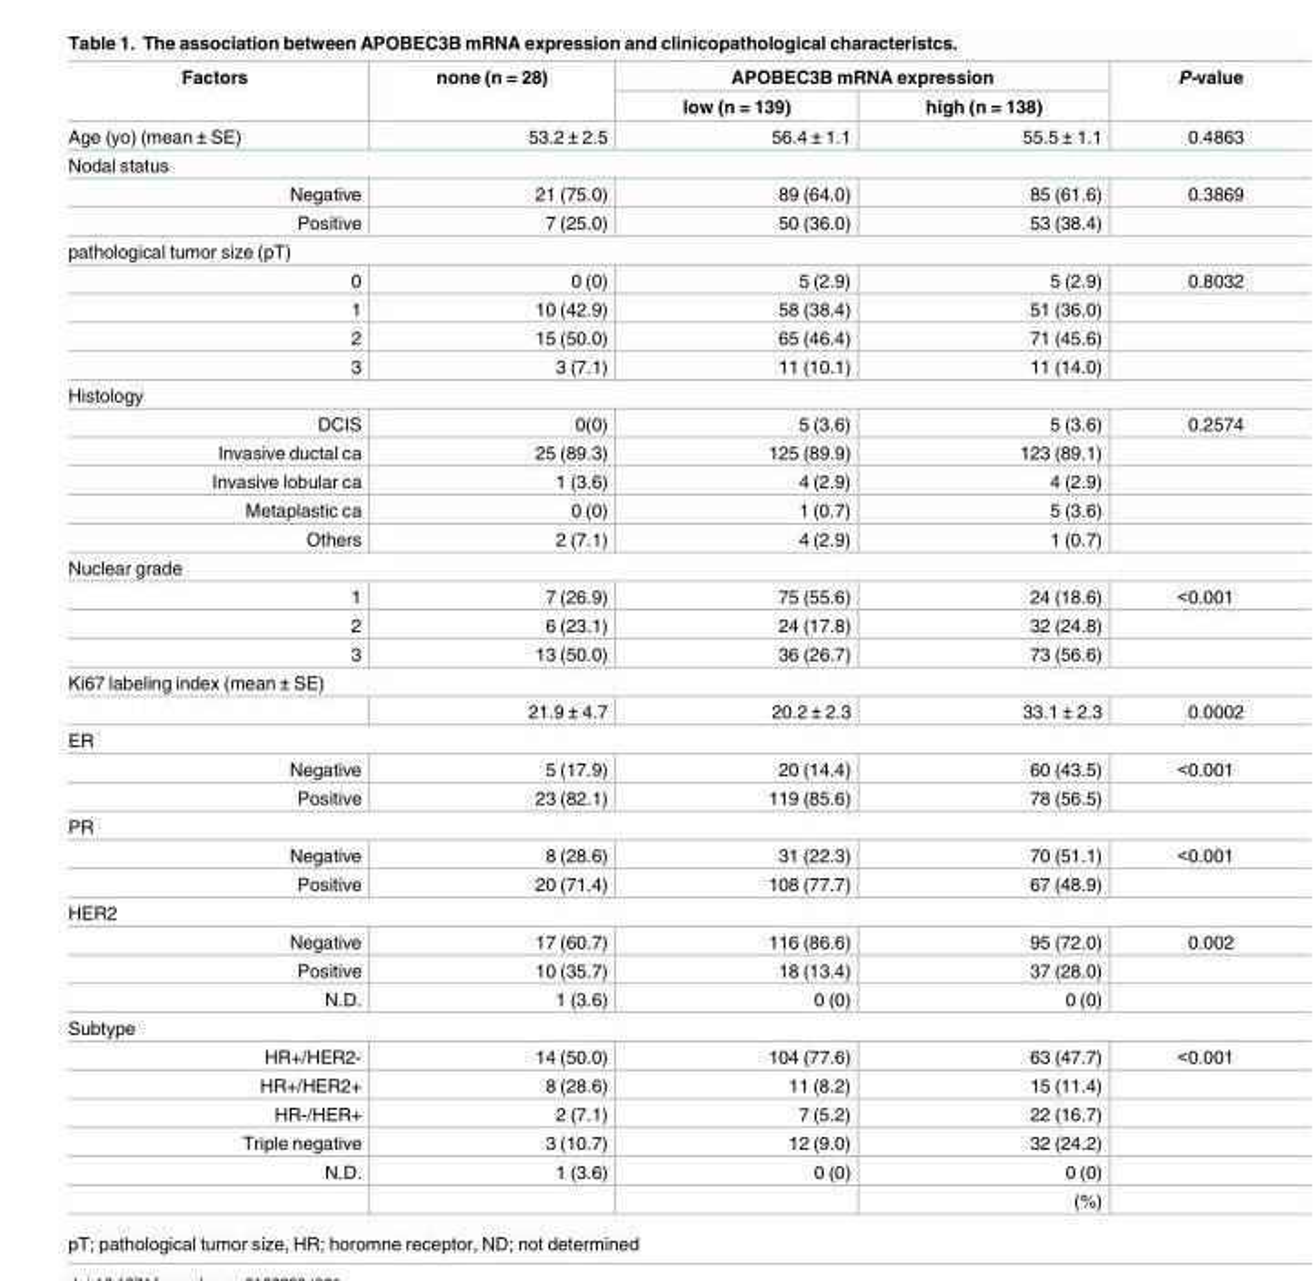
<table><thead><tr><td rowspan="2">Factors</td><td rowspan="2">none (n = 28)</td><td colspan="2">APOBEC3B mRNA expression</td><td rowspan="2">P-value</td></tr><tr><td>low (n = 139)</td><td>high (n = 138)</td></tr></thead><tbody><tr><td>Age (yo) (mean ± SE)</td><td>53.2 ± 2.5</td><td>56.4 ± 1.1</td><td>55.5 ± 1.1</td><td>0.4863</td></tr><tr><td colspan="5">Nodal status</td></tr><tr><td>Negative</td><td>21 (75.0)</td><td>89 (64.0)</td><td>85 (61.6)</td><td>0.3869</td></tr><tr><td>Positive</td><td>7 (25.0)</td><td>50 (36.0)</td><td>53 (38.4)</td><td></td></tr><tr><td colspan="5">pathological tumor size (pT)</td></tr><tr><td>0</td><td>0 (0)</td><td>5 (2.9)</td><td>5 (2.9)</td><td>0.8032</td></tr><tr><td>1</td><td>10 (42.9)</td><td>58 (38.4)</td><td>51 (36.0)</td><td></td></tr><tr><td>2</td><td>15 (50.0)</td><td>65 (46.4)</td><td>71 (45.6)</td><td></td></tr><tr><td>3</td><td>3 (7.1)</td><td>11 (10.1)</td><td>11 (14.0)</td><td></td></tr><tr><td colspan="5">Histology</td></tr><tr><td>DCIS</td><td>0(0)</td><td>5 (3.6)</td><td>5 (3.6)</td><td>0.2574</td></tr><tr><td>Invasive ductal ca</td><td>25 (89.3)</td><td>125 (89.9)</td><td>123 (89.1)</td><td></td></tr><tr><td>Invasive lobular ca</td><td>1 (3.6)</td><td>4 (2.9)</td><td>4 (2.9)</td><td></td></tr><tr><td>Metaplastic ca</td><td>0 (0)</td><td>1 (0.7)</td><td>5 (3.6)</td><td></td></tr><tr><td>Others</td><td>2 (7.1)</td><td>4 (2.9)</td><td>1 (0.7)</td><td></td></tr><tr><td colspan="5">Nuclear grade</td></tr><tr><td>1</td><td>7 (26.9)</td><td>75 (55.6)</td><td>24 (18.6)</td><td>&lt;0.001</td></tr><tr><td>2</td><td>6 (23.1)</td><td>24 (17.8)</td><td>32 (24.8)</td><td></td></tr><tr><td>3</td><td>13 (50.0)</td><td>36 (26.7)</td><td>73 (56.6)</td><td></td></tr><tr><td colspan="5">Ki67 labeling index (mean ± SE)</td></tr><tr><td></td><td>21.9 ± 4.7</td><td>20.2 ± 2.3</td><td>33.1 ± 2.3</td><td>0.0002</td></tr><tr><td colspan="5">ER</td></tr><tr><td>Negative</td><td>5 (17.9)</td><td>20 (14.4)</td><td>60 (43.5)</td><td>&lt;0.001</td></tr><tr><td>Positive</td><td>23 (82.1)</td><td>119 (85.6)</td><td>78 (56.5)</td><td></td></tr><tr><td colspan="5">PR</td></tr><tr><td>Negative</td><td>8 (28.6)</td><td>31 (22.3)</td><td>70 (51.1)</td><td>&lt;0.001</td></tr><tr><td>Positive</td><td>20 (71.4)</td><td>108 (77.7)</td><td>67 (48.9)</td><td></td></tr><tr><td colspan="5">HER2</td></tr><tr><td>Negative</td><td>17 (60.7)</td><td>116 (86.6)</td><td>95 (72.0)</td><td>0.002</td></tr><tr><td>Positive</td><td>10 (35.7)</td><td>18 (13.4)</td><td>37 (28.0)</td><td></td></tr><tr><td>N.D.</td><td>1 (3.6)</td><td>0 (0)</td><td>0 (0)</td><td></td></tr><tr><td colspan="5">Subtype</td></tr><tr><td>HR+/HER2-</td><td>14 (50.0)</td><td>104 (77.6)</td><td>63 (47.7)</td><td>&lt;0.001</td></tr><tr><td>HR+/HER2+</td><td>8 (28.6)</td><td>11 (8.2)</td><td>15 (11.4)</td><td></td></tr><tr><td>HR-/HER+</td><td>2 (7.1)</td><td>7 (5.2)</td><td>22 (16.7)</td><td></td></tr><tr><td>Triple negative</td><td>3 (10.7)</td><td>12 (9.0)</td><td>32 (24.2)</td><td></td></tr><tr><td rowspan="2">N.D.</td><td>1 (3.6)</td><td>0 (0)</td><td>0 (0)</td><td></td></tr><tr><td></td><td></td><td>(%)</td><td></td></tr></tbody></table>